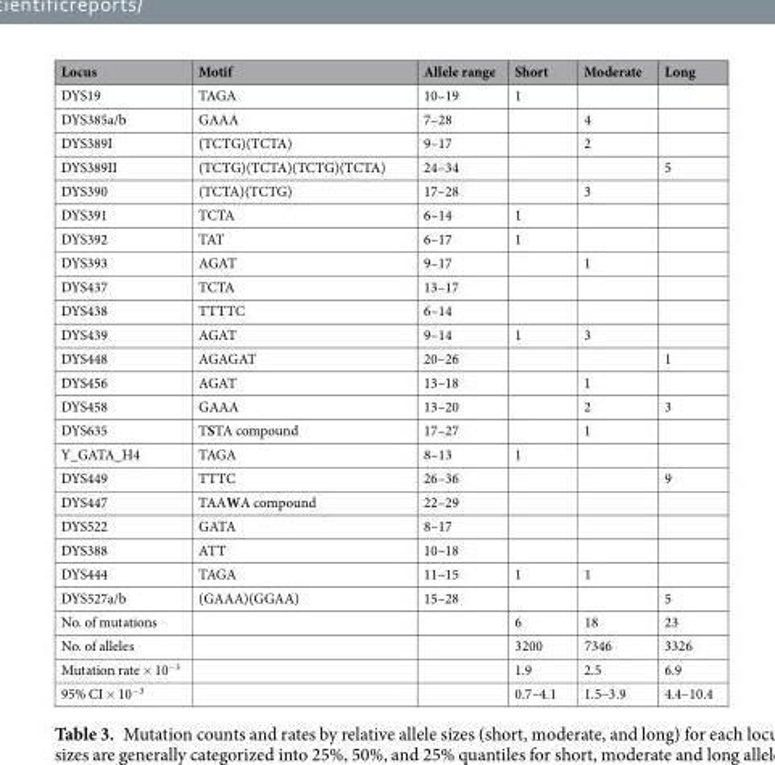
<table><thead><tr><td>Locus</td><td>Motif</td><td>Allele range</td><td>Short</td><td>Moderate</td><td>Long</td></tr></thead><tbody><tr><td>DYS19</td><td>TAGA</td><td>10–19</td><td>1</td><td></td><td></td></tr><tr><td>DYS385a/b</td><td>GAAA</td><td>7–28</td><td></td><td>4</td><td></td></tr><tr><td>DYS389I</td><td>(TCTG)(TCTA)</td><td>9–17</td><td></td><td>2</td><td></td></tr><tr><td>DYS389II</td><td>(TCTG)(TCTA)(TCTG)(TCTA)</td><td>24–34</td><td></td><td></td><td>5</td></tr><tr><td>DYS390</td><td>(TCTA)(TCTG)</td><td>17–28</td><td></td><td>3</td><td></td></tr><tr><td>DYS391</td><td>TCTA</td><td>6–14</td><td>1</td><td></td><td></td></tr><tr><td>DYS392</td><td>TAT</td><td>6–17</td><td>1</td><td></td><td></td></tr><tr><td>DYS393</td><td>AGAT</td><td>9–17</td><td></td><td>1</td><td></td></tr><tr><td>DYS437</td><td>TCTA</td><td>13–17</td><td></td><td></td><td></td></tr><tr><td>DYS438</td><td>TTTTC</td><td>6–14</td><td></td><td></td><td></td></tr><tr><td>DYS439</td><td>AGAT</td><td>9–14</td><td>1</td><td>3</td><td></td></tr><tr><td>DYS448</td><td>AGAGAT</td><td>20–26</td><td></td><td></td><td>1</td></tr><tr><td>DYS456</td><td>AGAT</td><td>13–18</td><td></td><td>1</td><td></td></tr><tr><td>DYS458</td><td>GAAA</td><td>13–20</td><td></td><td>2</td><td>3</td></tr><tr><td>DYS635</td><td>TSTA compound</td><td>17–27</td><td></td><td>1</td><td></td></tr><tr><td>Y_GATA_H4</td><td>TAGA</td><td>8–13</td><td>1</td><td></td><td></td></tr><tr><td>DYS449</td><td>TTTC</td><td>26–36</td><td></td><td></td><td>9</td></tr><tr><td>DYS447</td><td>TAAWA compound</td><td>22–29</td><td></td><td></td><td></td></tr><tr><td>DYS522</td><td>GATA</td><td>8–17</td><td></td><td></td><td></td></tr><tr><td>DYS388</td><td>ATT</td><td>10–18</td><td></td><td></td><td></td></tr><tr><td>DYS444</td><td>TAGA</td><td>11–15</td><td>1</td><td>1</td><td></td></tr><tr><td>DYS527a/b</td><td>(GAAA)(GGAA)</td><td>15–28</td><td></td><td></td><td>5</td></tr><tr><td>No. of mutations</td><td></td><td></td><td>6</td><td>18</td><td>23</td></tr><tr><td>No. of alleles</td><td></td><td></td><td>3200</td><td>7346</td><td>3326</td></tr><tr><td>Mutation rate × 10<sup>−3</sup></td><td></td><td></td><td>1.9</td><td>2.5</td><td>6.9</td></tr><tr><td>95% CI × 10<sup>−3</sup></td><td></td><td></td><td>0.7–4.1</td><td>1.5–3.9</td><td>4.4–10.4</td></tr></tbody></table>